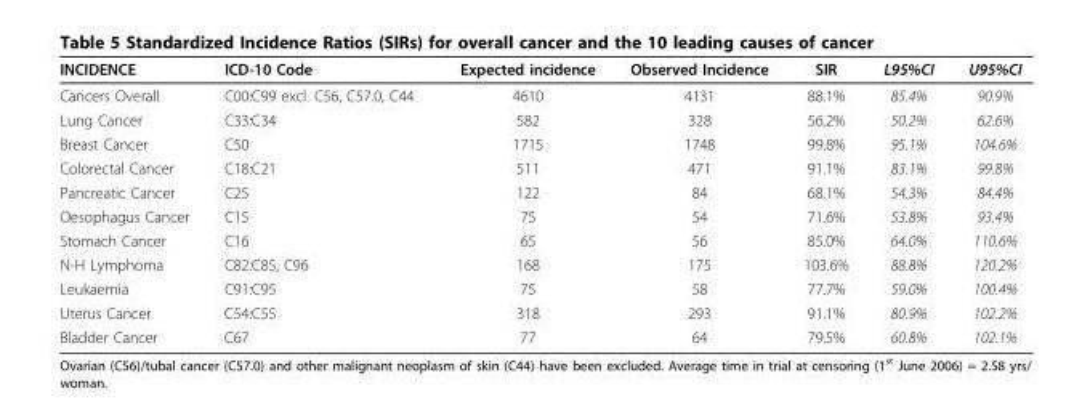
<table><thead><tr><td>INCIDENCE</td><td>ICD-10 Code</td><td>Expected incidence</td><td>Observed Incidence</td><td>SIR</td><td>L95%CI</td><td>U95%CI</td></tr></thead><tbody><tr><td>Cancers Overall</td><td>C00:C99 excl. C56, C57.0, C44</td><td>4610</td><td>4131</td><td>88.1%</td><td>85.4%</td><td>90.9%</td></tr><tr><td>Lung Cancer</td><td>C33:C34</td><td>582</td><td>328</td><td>56.2%</td><td>50.2%</td><td>62.6%</td></tr><tr><td>Breast Cancer</td><td>C50</td><td>1715</td><td>1748</td><td>99.8%</td><td>95.1%</td><td>104.6%</td></tr><tr><td>Colorectal Cancer</td><td>C18:C21</td><td>511</td><td>471</td><td>91.1%</td><td>83.1%</td><td>99.8%</td></tr><tr><td>Pancreatic Cancer</td><td>C25</td><td>122</td><td>84</td><td>68.1%</td><td>54.3%</td><td>84.4%</td></tr><tr><td>Oesophagus Cancer</td><td>C15</td><td>75</td><td>54</td><td>71.6%</td><td>53.8%</td><td>93.4%</td></tr><tr><td>Stomach Cancer</td><td>C16</td><td>65</td><td>56</td><td>85.0%</td><td>64.0%</td><td>110.6%</td></tr><tr><td>N-H Lymphoma</td><td>C82:C85, C96</td><td>168</td><td>175</td><td>103.6%</td><td>88.8%</td><td>120.2%</td></tr><tr><td>Leukaemia</td><td>C91:C95</td><td>75</td><td>58</td><td>77.7%</td><td>59.0%</td><td>100.4%</td></tr><tr><td>Uterus Cancer</td><td>C54:C55</td><td>318</td><td>293</td><td>91.1%</td><td>80.9%</td><td>102.2%</td></tr><tr><td>Bladder Cancer</td><td>C67</td><td>77</td><td>64</td><td>79.5%</td><td>60.8%</td><td>102.1%</td></tr></tbody></table>